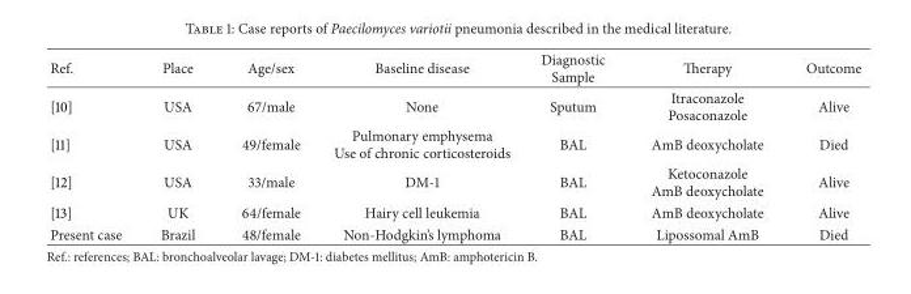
<table><thead><tr><td>Ref.</td><td>Place</td><td>Age/sex</td><td>Baseline disease</td><td>Diagnostic Sample</td><td>Therapy</td><td>Outcome</td></tr></thead><tbody><tr><td>[10]</td><td>USA</td><td>67/male</td><td>None</td><td>Sputum</td><td>Itraconazole Posaconazole</td><td>Alive</td></tr><tr><td>[11]</td><td>USA</td><td>49/female</td><td>Pulmonary emphysema Use of chronic corticosteroids</td><td>BAL</td><td>AmB deoxycholate</td><td>Died</td></tr><tr><td>[12]</td><td>USA</td><td>33/male</td><td>DM-1</td><td>BAL</td><td>Ketoconazole AmB deoxycholate</td><td>Alive</td></tr><tr><td>[13]</td><td>UK</td><td>64/female</td><td>Hairy cell leukemia</td><td>BAL</td><td>AmB deoxycholate</td><td>Alive</td></tr><tr><td>Present case</td><td>Brazil</td><td>48/female</td><td>Non-Hodgkin’s lymphoma</td><td>BAL</td><td>Lipossomal AmB</td><td>Died</td></tr></tbody></table>